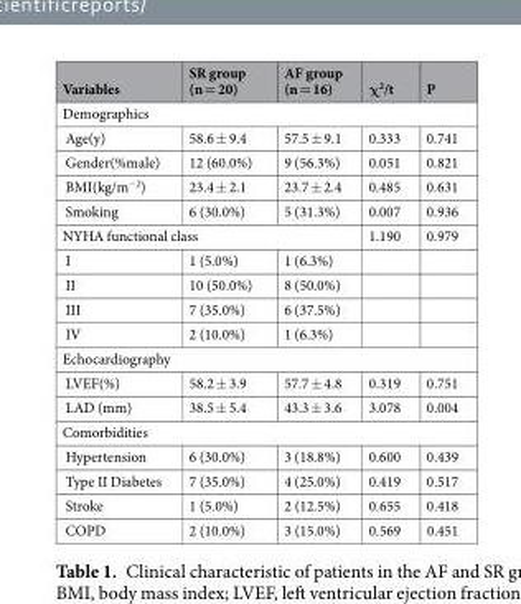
<table><thead><tr><td>Variables</td><td>SR group (n = 20)</td><td>AF group (n = 16)</td><td>χ<sup>2</sup>/t</td><td>P</td></tr></thead><tbody><tr><td colspan="5">Demographics</td></tr><tr><td>Age(y)</td><td>58.6 ± 9.4</td><td>57.5 ± 9.1</td><td>0.333</td><td>0.741</td></tr><tr><td>Gender(%male)</td><td>12 (60.0%)</td><td>9 (56.3%)</td><td>0.051</td><td>0.821</td></tr><tr><td>BMI(kg/m<sup>−2</sup>)</td><td>23.4 ± 2.1</td><td>23.7 ± 2.4</td><td>0.485</td><td>0.631</td></tr><tr><td>Smoking</td><td>6 (30.0%)</td><td>5 (31.3%)</td><td>0.007</td><td>0.936</td></tr><tr><td colspan="3">NYHA functional class</td><td>1.190</td><td>0.979</td></tr><tr><td>I</td><td>1 (5.0%)</td><td>1 (6.3%)</td><td></td><td></td></tr><tr><td>II</td><td>10 (50.0%)</td><td>8 (50.0%)</td><td></td><td></td></tr><tr><td>III</td><td>7 (35.0%)</td><td>6 (37.5%)</td><td></td><td></td></tr><tr><td>IV</td><td>2 (10.0%)</td><td>1 (6.3%)</td><td></td><td></td></tr><tr><td colspan="5">Echocardiography</td></tr><tr><td>LVEF(%)</td><td>58.2 ± 3.9</td><td>57.7 ± 4.8</td><td>0.319</td><td>0.751</td></tr><tr><td>LAD (mm)</td><td>38.5 ± 5.4</td><td>43.3 ± 3.6</td><td>3.078</td><td>0.004</td></tr><tr><td colspan="5">Comorbidities</td></tr><tr><td>Hypertension</td><td>6 (30.0%)</td><td>3 (18.8%)</td><td>0.600</td><td>0.439</td></tr><tr><td>Type II Diabetes</td><td>7 (35.0%)</td><td>4 (25.0%)</td><td>0.419</td><td>0.517</td></tr><tr><td>Stroke</td><td>1 (5.0%)</td><td>2 (12.5%)</td><td>0.655</td><td>0.418</td></tr><tr><td>COPD</td><td>2 (10.0%)</td><td>3 (15.0%)</td><td>0.569</td><td>0.451</td></tr></tbody></table>